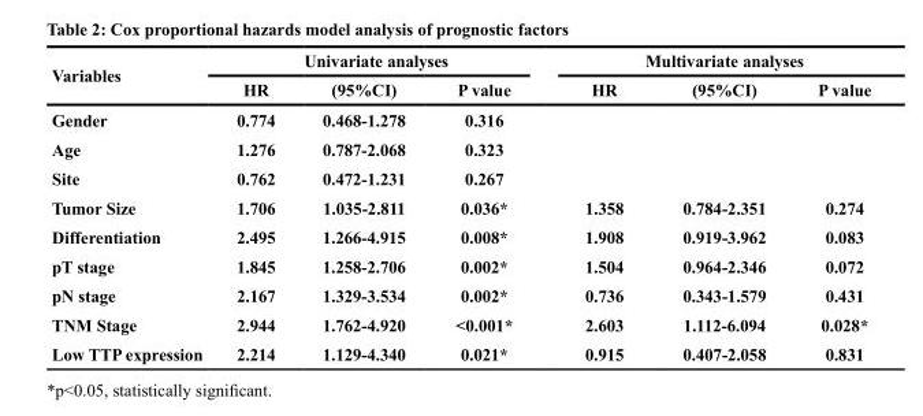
<table><thead><tr><td rowspan="2">Variables</td><td colspan="3">Univariate analyses</td><td colspan="3">Multivariate analyses</td></tr><tr><td>HR</td><td>(95%CI)</td><td>P value</td><td>HR</td><td>(95%CI)</td><td>P value</td></tr></thead><tbody><tr><td>Gender</td><td>0.774</td><td>0.468-1.278</td><td>0.316</td><td></td><td></td><td></td></tr><tr><td>Age</td><td>1.276</td><td>0.787-2.068</td><td>0.323</td><td></td><td></td><td></td></tr><tr><td>Site</td><td>0.762</td><td>0.472-1.231</td><td>0.267</td><td></td><td></td><td></td></tr><tr><td>Tumor Size</td><td>1.706</td><td>1.035-2.811</td><td>0.036*</td><td>1.358</td><td>0.784-2.351</td><td>0.274</td></tr><tr><td>Differentiation</td><td>2.495</td><td>1.266-4.915</td><td>0.008*</td><td>1.908</td><td>0.919-3.962</td><td>0.083</td></tr><tr><td>pT stage</td><td>1.845</td><td>1.258-2.706</td><td>0.002*</td><td>1.504</td><td>0.964-2.346</td><td>0.072</td></tr><tr><td>pN stage</td><td>2.167</td><td>1.329-3.534</td><td>0.002*</td><td>0.736</td><td>0.343-1.579</td><td>0.431</td></tr><tr><td>TNM Stage</td><td>2.944</td><td>1.762-4.920</td><td>&lt;0.001*</td><td>2.603</td><td>1.112-6.094</td><td>0.028*</td></tr><tr><td>Low TTP expression</td><td>2.214</td><td>1.129-4.340</td><td>0.021*</td><td>0.915</td><td>0.407-2.058</td><td>0.831</td></tr></tbody></table>